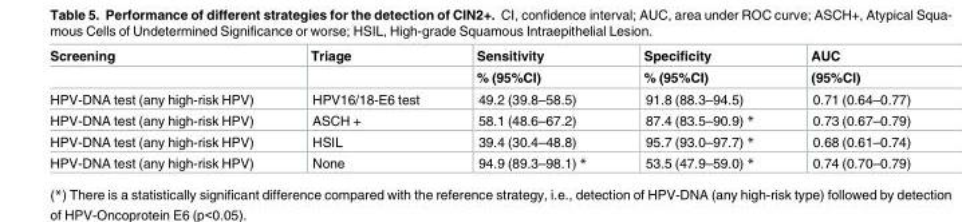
<table><thead><tr><td rowspan="2">Screening</td><td rowspan="2">Triage</td><td rowspan="2">Sensitivity % (95%CI)</td><td rowspan="2">Specificity % (95%CI)</td><td rowspan="2">AUC (95%CI)</td></tr><tr></tr></thead><tbody><tr><td>HPV-DNA test (any high-risk HPV)</td><td>HPV16/18-E6 test</td><td>49.2 (39.8–58.5)</td><td>91.8 (88.3–94.5)</td><td>0.71 (0.64–0.77)</td></tr><tr><td>HPV-DNA test (any high-risk HPV)</td><td>ASCH +</td><td>58.1 (48.6–67.2)</td><td>87.4 (83.5–90.9) *</td><td>0.73 (0.67–0.79)</td></tr><tr><td>HPV-DNA test (any high-risk HPV)</td><td>HSIL</td><td>39.4 (30.4–48.8)</td><td>95.7 (93.0–97.7) *</td><td>0.68 (0.61–0.74)</td></tr><tr><td>HPV-DNA test (any high-risk HPV)</td><td>None</td><td>94.9 (89.3–98.1) *</td><td>53.5 (47.9–59.0) *</td><td>0.74 (0.70–0.79)</td></tr></tbody></table>